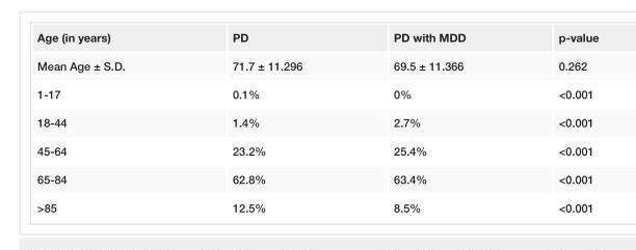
<table><tbody><tr><td>Age (in years)</td><td>PD</td><td>PD with MDD</td><td>p-value</td></tr><tr><td>Mean Age ± S.D.</td><td>71.7 ± 11.296</td><td>69.5 ± 11.366</td><td>0.262</td></tr><tr><td>1-17</td><td>0.1%</td><td>0%</td><td>&lt;0.001</td></tr><tr><td>18-44</td><td>1.4%</td><td>2.7%</td><td>&lt;0.001</td></tr><tr><td>45-64</td><td>23.2%</td><td>25.4%</td><td>&lt;0.001</td></tr><tr><td>65-84</td><td>62.8%</td><td>63.4%</td><td>&lt;0.001</td></tr><tr><td>&gt;85</td><td>12.5%</td><td>8.5%</td><td>&lt;0.001</td></tr></tbody></table>